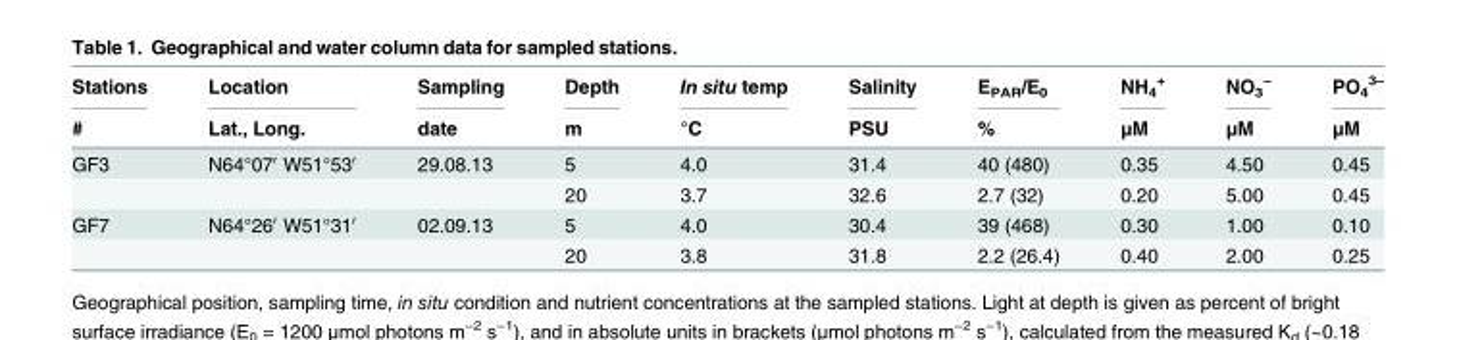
<table><thead><tr><td rowspan="2">Stations #</td><td rowspan="2">Location Lat., Long.</td><td rowspan="2">Sampling date</td><td rowspan="2">Depth m</td><td rowspan="2">In situ temp °C</td><td rowspan="2">Salinity PSU</td><td rowspan="2">E<sub>PAR</sub>/E<sub>0</sub> %</td><td rowspan="2">NH<sub>4</sub> <sup>+</sup> μM</td><td rowspan="2">NO<sub>3</sub> <sup>−</sup> μM</td><td rowspan="2">PO<sub>4</sub> <sup>3–</sup> μM</td></tr><tr></tr></thead><tbody><tr><td rowspan="2">GF3</td><td>N64°07′ W51°53′</td><td>29.08.13</td><td>5</td><td>4.0</td><td>31.4</td><td>40 (480)</td><td>0.35</td><td>4.50</td><td>0.45</td></tr><tr><td></td><td></td><td>20</td><td>3.7</td><td>32.6</td><td>2.7 (32)</td><td>0.20</td><td>5.00</td><td>0.45</td></tr><tr><td rowspan="2">GF7</td><td>N64°26′ W51°31′</td><td>02.09.13</td><td>5</td><td>4.0</td><td>30.4</td><td>39 (468)</td><td>0.30</td><td>1.00</td><td>0.10</td></tr><tr><td></td><td></td><td>20</td><td>3.8</td><td>31.8</td><td>2.2 (26.4)</td><td>0.40</td><td>2.00</td><td>0.25</td></tr></tbody></table>